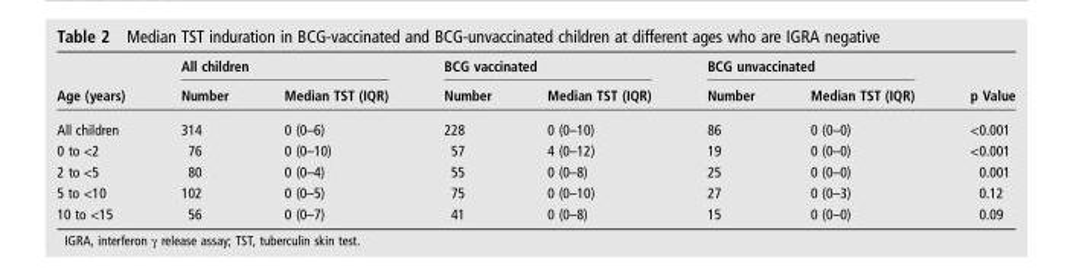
<table><thead><tr><td rowspan="2">Age (years)</td><td colspan="2">All children</td><td colspan="2">BCG vaccinated</td><td colspan="2">BCG unvaccinated</td><td rowspan="2">p Value</td></tr><tr><td>Number</td><td>Median TST (IQR)</td><td>Number</td><td>Median TST (IQR)</td><td>Number</td><td>Median TST (IQR)</td></tr></thead><tbody><tr><td>All children</td><td>314</td><td>0 (0–6)</td><td>228</td><td>0 (0–10)</td><td>86</td><td>0 (0–0)</td><td>&lt;0.001</td></tr><tr><td>0 to &lt;2</td><td>76</td><td>0 (0–10)</td><td>57</td><td>4 (0–12)</td><td>19</td><td>0 (0–0)</td><td>&lt;0.001</td></tr><tr><td>2 to &lt;5</td><td>80</td><td>0 (0–4)</td><td>55</td><td>0 (0–8)</td><td>25</td><td>0 (0–0)</td><td>0.001</td></tr><tr><td>5 to &lt;10</td><td>102</td><td>0 (0–5)</td><td>75</td><td>0 (0–10)</td><td>27</td><td>0 (0–3)</td><td>0.12</td></tr><tr><td>10 to &lt;15</td><td>56</td><td>0 (0–7)</td><td>41</td><td>0 (0–8)</td><td>15</td><td>0 (0–0)</td><td>0.09</td></tr></tbody></table>